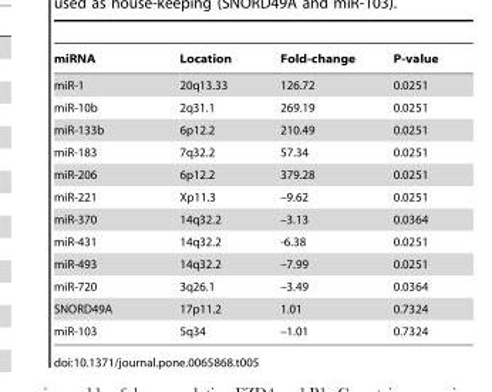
<table><thead><tr><td>miRNA</td><td>Location</td><td>Fold-change</td><td>P-value</td></tr></thead><tbody><tr><td>miR-1</td><td>20q13.33</td><td>126.72</td><td>0.0251</td></tr><tr><td>miR-10b</td><td>2q31.1</td><td>269.19</td><td>0.0251</td></tr><tr><td>miR-133b</td><td>6p12.2</td><td>210.49</td><td>0.0251</td></tr><tr><td>miR-183</td><td>7q32.2</td><td>57.34</td><td>0.0251</td></tr><tr><td>miR-206</td><td>6p12.2</td><td>379.28</td><td>0.0251</td></tr><tr><td>miR-221</td><td>Xp11.3</td><td>–9.62</td><td>0.0251</td></tr><tr><td>miR-370</td><td>14q32.2</td><td>–3.13</td><td>0.0364</td></tr><tr><td>miR-431</td><td>14q32.2</td><td>-6.38</td><td>0.0251</td></tr><tr><td>miR-493</td><td>14q32.2</td><td>–7.99</td><td>0.0251</td></tr><tr><td>miR-720</td><td>3q26.1</td><td>–3.49</td><td>0.0364</td></tr><tr><td>SNORD49A</td><td>17p11.2</td><td>1.01</td><td>0.7324</td></tr><tr><td>miR-103</td><td>5q34</td><td>–1.01</td><td>0.7324</td></tr></tbody></table>